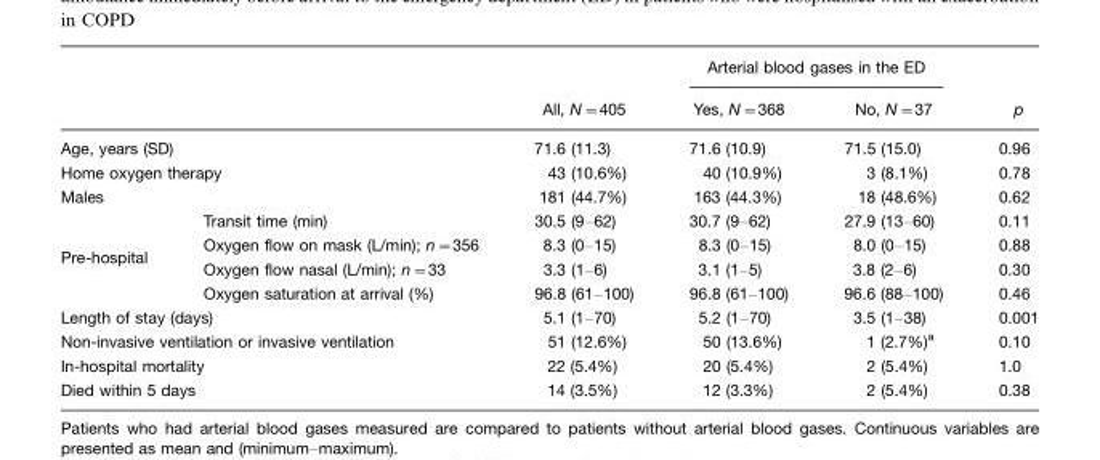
<table><thead><tr><td rowspan="2"></td><td rowspan="2"></td><td rowspan="2">All, N=405</td><td colspan="2">Arterial blood gases in the ED</td><td rowspan="2">p</td></tr><tr><td>Yes, N=368</td><td>No, N=37</td></tr></thead><tbody><tr><td colspan="2">Age, years (SD)</td><td>71.6 (11.3)</td><td>71.6 (10.9)</td><td>71.5 (15.0)</td><td>0.96</td></tr><tr><td colspan="2">Home oxygen therapy</td><td>43 (10.6%)</td><td>40 (10.9%)</td><td>3 (8.1%)</td><td>0.78</td></tr><tr><td colspan="2">Males</td><td>181 (44.7%)</td><td>163 (44.3%)</td><td>18 (48.6%)</td><td>0.62</td></tr><tr><td rowspan="4">Pre-hospital</td><td>Transit time (min)</td><td>30.5 (9–62)</td><td>30.7 (9–62)</td><td>27.9 (13–60)</td><td>0.11</td></tr><tr><td>Oxygen flow on mask (L/min); n=356</td><td>8.3 (0–15)</td><td>8.3 (0–15)</td><td>8.0 (0–15)</td><td>0.88</td></tr><tr><td>Oxygen flow nasal (L/min); n=33</td><td>3.3 (1–6)</td><td>3.1 (1–5)</td><td>3.8 (2–6)</td><td>0.30</td></tr><tr><td>Oxygen saturation at arrival (%)</td><td>96.8 (61–100)</td><td>96.8 (61–100)</td><td>96.6 (88–100)</td><td>0.46</td></tr><tr><td colspan="2">Length of stay (days)</td><td>5.1 (1–70)</td><td>5.2 (1–70)</td><td>3.5 (1–38)</td><td>0.001</td></tr><tr><td colspan="2">Non-invasive ventilation or invasive ventilation</td><td>51 (12.6%)</td><td>50 (13.6%)</td><td>1 (2.7%)<sup>a</sup></td><td>0.10</td></tr><tr><td colspan="2">In-hospital mortality</td><td>22 (5.4%)</td><td>20 (5.4%)</td><td>2 (5.4%)</td><td>1.0</td></tr><tr><td colspan="2">Died within 5 days</td><td>14 (3.5%)</td><td>12 (3.3%)</td><td>2 (5.4%)</td><td>0.38</td></tr></tbody></table>